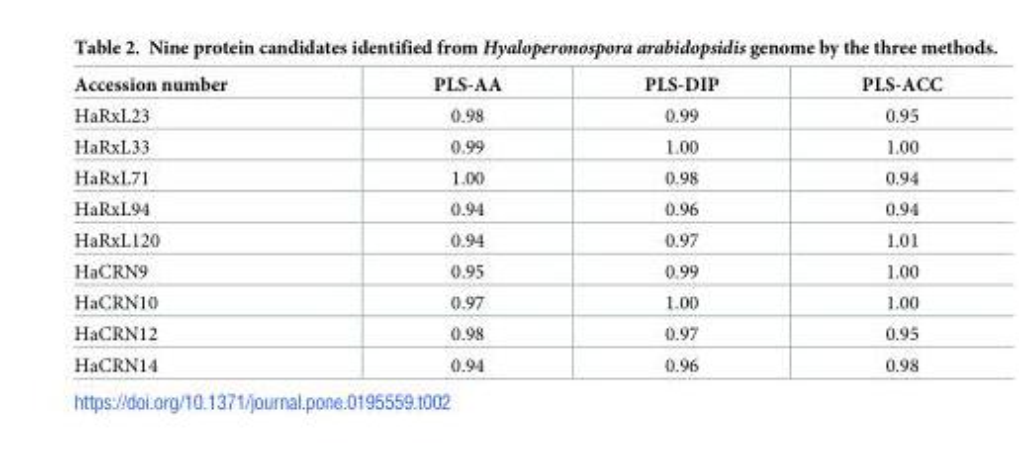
<table><thead><tr><td>Accession number</td><td>PLS-AA</td><td>PLS-DIP</td><td>PLS-ACC</td></tr></thead><tbody><tr><td>HaRxL23</td><td>0.98</td><td>0.99</td><td>0.95</td></tr><tr><td>HaRxL33</td><td>0.99</td><td>1.00</td><td>1.00</td></tr><tr><td>HaRxL71</td><td>1.00</td><td>0.98</td><td>0.94</td></tr><tr><td>HaRxL94</td><td>0.94</td><td>0.96</td><td>0.94</td></tr><tr><td>HaRxL120</td><td>0.94</td><td>0.97</td><td>1.01</td></tr><tr><td>HaCRN9</td><td>0.95</td><td>0.99</td><td>1.00</td></tr><tr><td>HaCRN10</td><td>0.97</td><td>1.00</td><td>1.00</td></tr><tr><td>HaCRN12</td><td>0.98</td><td>0.97</td><td>0.95</td></tr><tr><td>HaCRN14</td><td>0.94</td><td>0.96</td><td>0.98</td></tr></tbody></table>